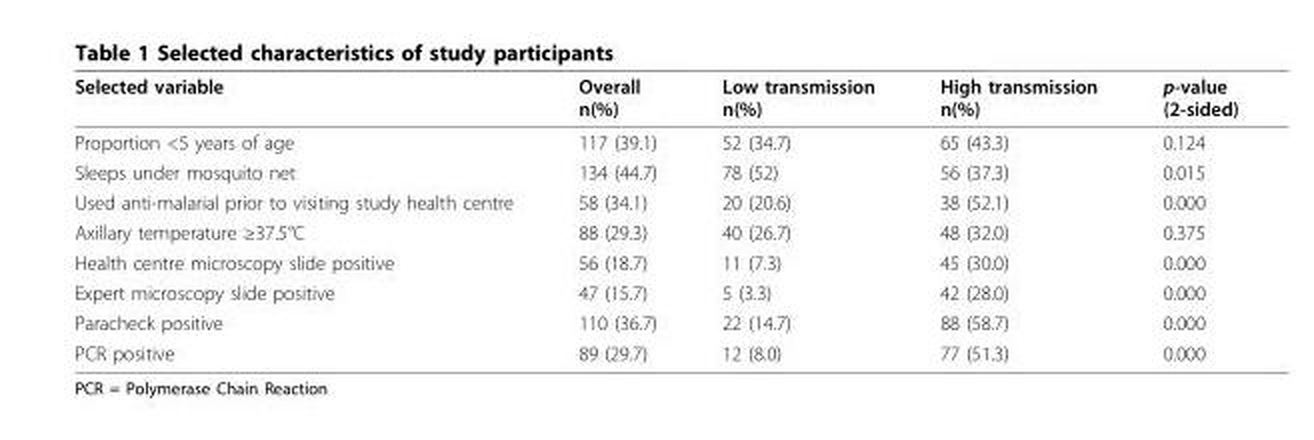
<table><thead><tr><td>Selected variable</td><td>Overall n(%)</td><td>Low transmission n(%)</td><td>High transmission n(%)</td><td>p-value (2-sided)</td></tr></thead><tbody><tr><td>Proportion &lt;5 years of age</td><td>117 (39.1)</td><td>52 (34.7)</td><td>65 (43.3)</td><td>0.124</td></tr><tr><td>Sleeps under mosquito net</td><td>134 (44.7)</td><td>78 (52)</td><td>56 (37.3)</td><td>0.015</td></tr><tr><td>Used anti-malarial prior to visiting study health centre</td><td>58 (34.1)</td><td>20 (20.6)</td><td>38 (52.1)</td><td>0.000</td></tr><tr><td>Axillary temperature ≥37.5°C</td><td>88 (29.3)</td><td>40 (26.7)</td><td>48 (32.0)</td><td>0.375</td></tr><tr><td>Health centre microscopy slide positive</td><td>56 (18.7)</td><td>11 (7.3)</td><td>45 (30.0)</td><td>0.000</td></tr><tr><td>Expert microscopy slide positive</td><td>47 (15.7)</td><td>5 (3.3)</td><td>42 (28.0)</td><td>0.000</td></tr><tr><td>Paracheck positive</td><td>110 (36.7)</td><td>22 (14.7)</td><td>88 (58.7)</td><td>0.000</td></tr><tr><td>PCR positive</td><td>89 (29.7)</td><td>12 (8.0)</td><td>77 (51.3)</td><td>0.000</td></tr></tbody></table>